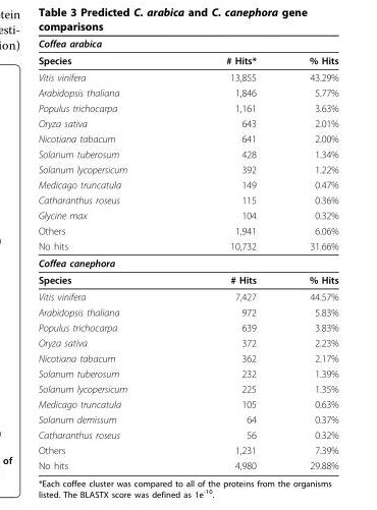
<table><thead><tr><td>Coffea arabica</td><td></td><td></td></tr></thead><tbody><tr><td>Species</td><td># Hits*</td><td>% Hits</td></tr><tr><td>Vitis vinifera</td><td>13,855</td><td>43.29%</td></tr><tr><td>Arabidopsis thaliana</td><td>1,846</td><td>5.77%</td></tr><tr><td>Populus trichocarpa</td><td>1,161</td><td>3.63%</td></tr><tr><td>Oryza sativa</td><td>643</td><td>2.01%</td></tr><tr><td>Nicotiana tabacum</td><td>641</td><td>2.00%</td></tr><tr><td>Solanum tuberosum</td><td>428</td><td>1.34%</td></tr><tr><td>Solanum lycopersicum</td><td>392</td><td>1.22%</td></tr><tr><td>Medicago truncatula</td><td>149</td><td>0.47%</td></tr><tr><td>Catharanthus roseus</td><td>115</td><td>0.36%</td></tr><tr><td>Glycine max</td><td>104</td><td>0.32%</td></tr><tr><td>Others</td><td>1,941</td><td>6.06%</td></tr><tr><td>No hits</td><td>10,732</td><td>31.66%</td></tr><tr><td colspan="3">Coffea canephora</td></tr><tr><td>Species</td><td># Hits</td><td>% Hits</td></tr><tr><td>Vitis vinifera</td><td>7,427</td><td>44.57%</td></tr><tr><td>Arabidopsis thaliana</td><td>972</td><td>5.83%</td></tr><tr><td>Populus trichocarpa</td><td>639</td><td>3.83%</td></tr><tr><td>Oryza sativa</td><td>372</td><td>2.23%</td></tr><tr><td>Nicotiana tabacum</td><td>362</td><td>2.17%</td></tr><tr><td>Solanum tuberosum</td><td>232</td><td>1.39%</td></tr><tr><td>Solanum lycopersicum</td><td>225</td><td>1.35%</td></tr><tr><td>Medicago truncatula</td><td>105</td><td>0.63%</td></tr><tr><td>Solanum demissum</td><td>64</td><td>0.37%</td></tr><tr><td>Catharanthus roseus</td><td>56</td><td>0.32%</td></tr><tr><td>Others</td><td>1,231</td><td>7.39%</td></tr><tr><td>No hits</td><td>4,980</td><td>29.88%</td></tr></tbody></table>